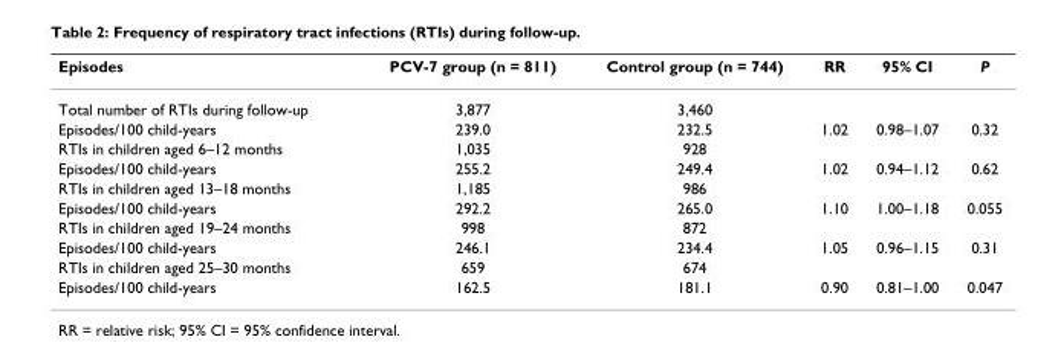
<table><thead><tr><td>Episodes</td><td>PCV-7 group (n = 811)</td><td>Control group (n = 744)</td><td>RR</td><td>95% CI</td><td>P</td></tr></thead><tbody><tr><td>Total number of RTIs during follow-up</td><td>3,877</td><td>3,460</td><td></td><td></td><td></td></tr><tr><td>Episodes/100 child-years</td><td>239.0</td><td>232.5</td><td>1.02</td><td>0.98–1.07</td><td>0.32</td></tr><tr><td>RTIs in children aged 6–12 months</td><td>1,035</td><td>928</td><td></td><td></td><td></td></tr><tr><td>Episodes/100 child-years</td><td>255.2</td><td>249.4</td><td>1.02</td><td>0.94–1.12</td><td>0.62</td></tr><tr><td>RTIs in children aged 13–18 months</td><td>1,185</td><td>986</td><td></td><td></td><td></td></tr><tr><td>Episodes/100 child-years</td><td>292.2</td><td>265.0</td><td>1.10</td><td>1.00–1.18</td><td>0.055</td></tr><tr><td>RTIs in children aged 19–24 months</td><td>998</td><td>872</td><td></td><td></td><td></td></tr><tr><td>Episodes/100 child-years</td><td>246.1</td><td>234.4</td><td>1.05</td><td>0.96–1.15</td><td>0.31</td></tr><tr><td>RTIs in children aged 25–30 months</td><td>659</td><td>674</td><td></td><td></td><td></td></tr><tr><td>Episodes/100 child-years</td><td>162.5</td><td>181.1</td><td>0.90</td><td>0.81–1.00</td><td>0.047</td></tr></tbody></table>